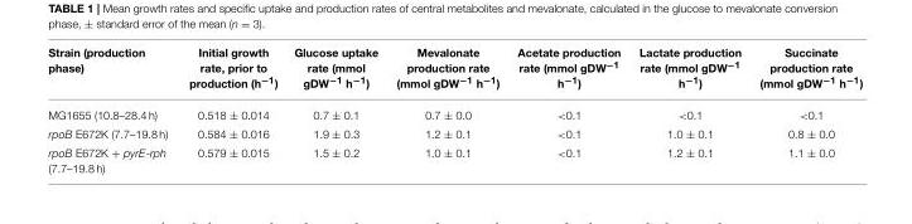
<table><thead><tr><td>Strain (production phase)</td><td>Initial growth rate, prior to production (h<sup>−1</sup>)</td><td>Glucose uptake rate (mmol gDW<sup>−1</sup> h<sup>−1</sup>)</td><td>Mevalonate production rate (mmol gDW<sup>−1</sup> h<sup>−1</sup>)</td><td>Acetate production rate (mmol gDW<sup>−1</sup> h<sup>−1</sup>)</td><td>Lactate production rate (mmol gDW<sup>−1</sup> h<sup>−1</sup>)</td><td>Succinate production rate (mmol gDW<sup>−1</sup> h<sup>−1</sup>)</td></tr></thead><tbody><tr><td>MG1655 (10.8–28.4 h)</td><td>0.518 ± 0.014</td><td>0.7 ± 0.1</td><td>0.7 ± 0.0</td><td>&lt;0.1</td><td>&lt;0.1</td><td>&lt;0.1</td></tr><tr><td>rpoB E672K (7.7–19.8 h)</td><td>0.584 ± 0.016</td><td>1.9 ± 0.3</td><td>1.2 ± 0.1</td><td>&lt;0.1</td><td>1.0 ± 0.1</td><td>0.8 ± 0.0</td></tr><tr><td>rpoB E672K + pyrE-rph (7.7–19.8 h)</td><td>0.579 ± 0.015</td><td>1.5 ± 0.2</td><td>1.0 ± 0.1</td><td>&lt;0.1</td><td>1.2 ± 0.1</td><td>1.1 ± 0.0</td></tr></tbody></table>